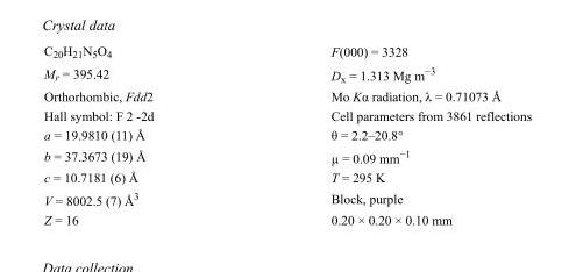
<table><tbody><tr><td>C<sub>20</sub>H<sub>21</sub>N<sub>5</sub>O<sub>4</sub></td><td>F(000) = 3328</td></tr><tr><td>M<sub>r</sub> = 395.42</td><td>D<sub>x</sub> = 1.313 Mg m<sup>−3</sup></td></tr><tr><td>Orthorhombic, Fdd2</td><td>Mo Kα radiation, λ = 0.71073 Å</td></tr><tr><td>Hall symbol: F 2 -2d</td><td>Cell parameters from 3861 reflections</td></tr><tr><td>a = 19.9810 (11) Å</td><td>θ = 2.2–20.8°</td></tr><tr><td>b = 37.3673 (19) Å</td><td>µ = 0.09 mm<sup>−1</sup></td></tr><tr><td>c = 10.7181 (6) Å</td><td>T = 295 K</td></tr><tr><td>V = 8002.5 (7) Å<sup>3</sup></td><td>Block, purple</td></tr><tr><td>Z = 16</td><td>0.20 × 0.20 × 0.10 mm</td></tr></tbody></table>